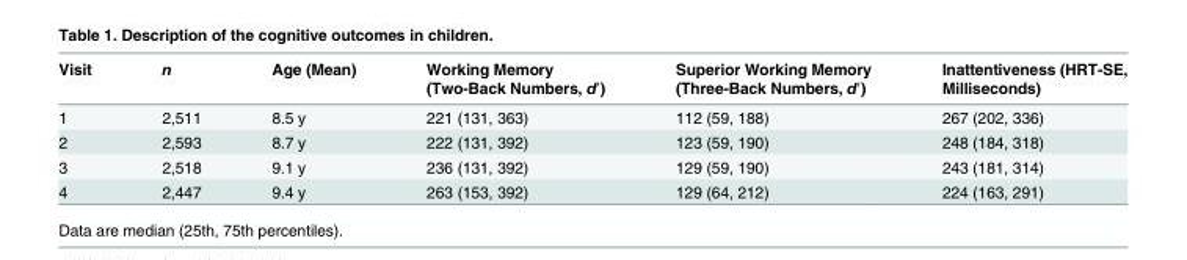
<table><thead><tr><td>Visit</td><td>n</td><td>Age (Mean)</td><td>Working Memory (Two-Back Numbers, d′)</td><td>Superior Working Memory (Three-Back Numbers, d′)</td><td>Inattentiveness (HRT-SE, Milliseconds)</td></tr></thead><tbody><tr><td>1</td><td>2,511</td><td>8.5 y</td><td>221 (131, 363)</td><td>112 (59, 188)</td><td>267 (202, 336)</td></tr><tr><td>2</td><td>2,593</td><td>8.7 y</td><td>222 (131, 392)</td><td>123 (59, 190)</td><td>248 (184, 318)</td></tr><tr><td>3</td><td>2,518</td><td>9.1 y</td><td>236 (131, 392)</td><td>129 (59, 190)</td><td>243 (181, 314)</td></tr><tr><td>4</td><td>2,447</td><td>9.4 y</td><td>263 (153, 392)</td><td>129 (64, 212)</td><td>224 (163, 291)</td></tr></tbody></table>